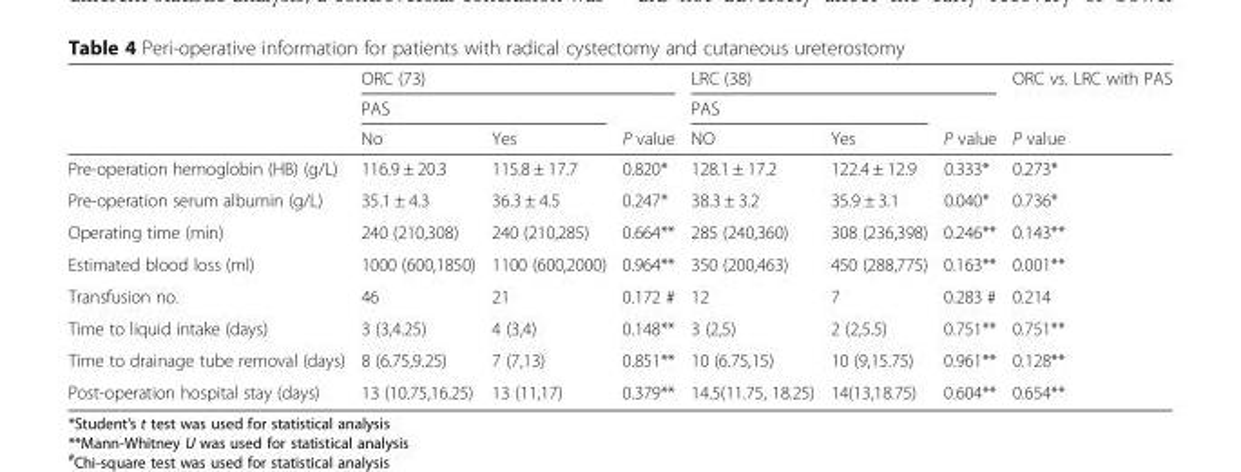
<table><thead><tr><td rowspan="3"></td><td colspan="3">ORC (73)</td><td colspan="3">LRC (38)</td><td rowspan="3">ORC vs. LRC with PAS P value</td></tr><tr><td colspan="2">PAS</td><td rowspan="2">P value</td><td colspan="2">PAS</td><td rowspan="2">P value</td></tr><tr><td>No</td><td>Yes</td><td>NO</td><td>Yes</td></tr></thead><tbody><tr><td>Pre-operation hemoglobin (HB) (g/L)</td><td>116.9 ± 20.3</td><td>115.8 ± 17.7</td><td>0.820*</td><td>128.1 ± 17.2</td><td>122.4 ± 12.9</td><td>0.333*</td><td>0.273*</td></tr><tr><td>Pre-operation serum albumin (g/L)</td><td>35.1 ± 4.3</td><td>36.3 ± 4.5</td><td>0.247*</td><td>38.3 ± 3.2</td><td>35.9 ± 3.1</td><td>0.040*</td><td>0.736*</td></tr><tr><td>Operating time (min)</td><td>240 (210,308)</td><td>240 (210,285)</td><td>0.664**</td><td>285 (240,360)</td><td>308 (236,398)</td><td>0.246**</td><td>0.143**</td></tr><tr><td>Estimated blood loss (ml)</td><td>1000 (600,1850)</td><td>1100 (600,2000)</td><td>0.964**</td><td>350 (200,463)</td><td>450 (288,775)</td><td>0.163**</td><td>0.001**</td></tr><tr><td>Transfusion no.</td><td>46</td><td>21</td><td>0.172 #</td><td>12</td><td>7</td><td>0.283 #</td><td>0.214</td></tr><tr><td>Time to liquid intake (days)</td><td>3 (3,4.25)</td><td>4 (3,4)</td><td>0.148**</td><td>3 (2,5)</td><td>2 (2,5.5)</td><td>0.751**</td><td>0.751**</td></tr><tr><td>Time to drainage tube removal (days)</td><td>8 (6.75,9.25)</td><td>7 (7,13)</td><td>0.851**</td><td>10 (6.75,15)</td><td>10 (9,15.75)</td><td>0.961**</td><td>0.128**</td></tr><tr><td>Post-operation hospital stay (days)</td><td>13 (10.75,16.25)</td><td>13 (11,17)</td><td>0.379**</td><td>14.5(11.75, 18.25)</td><td>14(13,18.75)</td><td>0.604**</td><td>0.654**</td></tr></tbody></table>